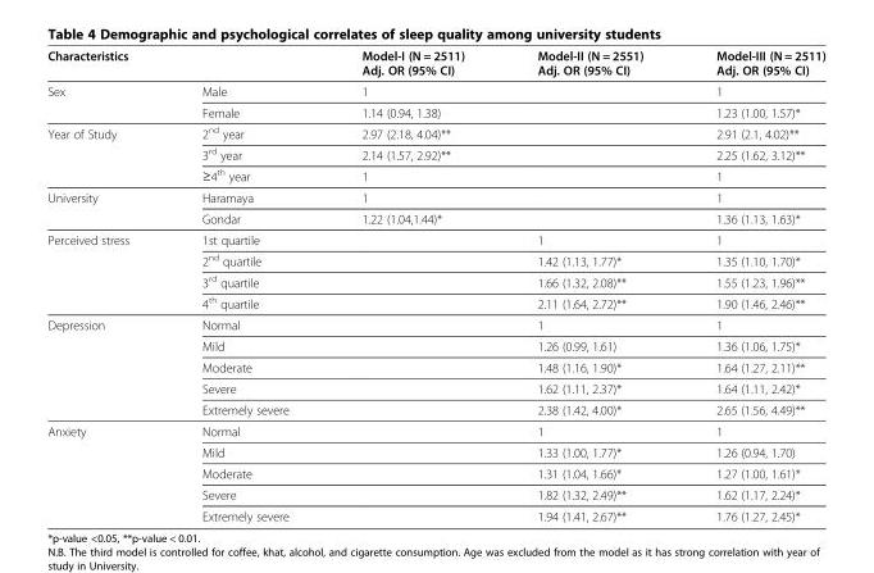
<table><thead><tr><td>Characteristics</td><td></td><td>Model-I (N = 2511) Adj. OR (95% CI)</td><td>Model-II (N = 2551) Adj. OR (95% CI)</td><td>Model-III (N = 2511) Adj. OR (95% CI)</td></tr></thead><tbody><tr><td rowspan="2">Sex</td><td>Male</td><td>1</td><td></td><td>1</td></tr><tr><td>Female</td><td>1.14 (0.94, 1.38)</td><td></td><td>1.23 (1.00, 1.57)*</td></tr><tr><td rowspan="3">Year of Study</td><td>2<sup>nd</sup> year</td><td>2.97 (2.18, 4.04)**</td><td></td><td>2.91 (2.1, 4.02)**</td></tr><tr><td>3<sup>rd</sup> year</td><td>2.14 (1.57, 2.92)**</td><td></td><td>2.25 (1.62, 3.12)**</td></tr><tr><td>≥4<sup>th</sup> year</td><td>1</td><td></td><td>1</td></tr><tr><td rowspan="2">University</td><td>Haramaya</td><td>1</td><td></td><td>1</td></tr><tr><td>Gondar</td><td>1.22 (1.04,1.44)*</td><td></td><td>1.36 (1.13, 1.63)*</td></tr><tr><td rowspan="4">Perceived stress</td><td>1st quartile</td><td></td><td>1</td><td>1</td></tr><tr><td>2<sup>nd</sup> quartile</td><td></td><td>1.42 (1.13, 1.77)*</td><td>1.35 (1.10, 1.70)*</td></tr><tr><td>3<sup>rd</sup> quartile</td><td></td><td>1.66 (1.32, 2.08)**</td><td>1.55 (1.23, 1.96)**</td></tr><tr><td>4<sup>th</sup> quartile</td><td></td><td>2.11 (1.64, 2.72)**</td><td>1.90 (1.46, 2.46)**</td></tr><tr><td rowspan="5">Depression</td><td>Normal</td><td></td><td>1</td><td>1</td></tr><tr><td>Mild</td><td></td><td>1.26 (0.99, 1.61)</td><td>1.36 (1.06, 1.75)*</td></tr><tr><td>Moderate</td><td></td><td>1.48 (1.16, 1.90)*</td><td>1.64 (1.27, 2.11)**</td></tr><tr><td>Severe</td><td></td><td>1.62 (1.11, 2.37)*</td><td>1.64 (1.11, 2.42)*</td></tr><tr><td>Extremely severe</td><td></td><td>2.38 (1.42, 4.00)*</td><td>2.65 (1.56, 4.49)**</td></tr><tr><td rowspan="5">Anxiety</td><td>Normal</td><td></td><td>1</td><td>1</td></tr><tr><td>Mild</td><td></td><td>1.33 (1.00, 1.77)*</td><td>1.26 (0.94, 1.70)</td></tr><tr><td>Moderate</td><td></td><td>1.31 (1.04, 1.66)*</td><td>1.27 (1.00, 1.61)*</td></tr><tr><td>Severe</td><td></td><td>1.82 (1.32, 2.49)**</td><td>1.62 (1.17, 2.24)*</td></tr><tr><td>Extremely severe</td><td></td><td>1.94 (1.41, 2.67)**</td><td>1.76 (1.27, 2.45)*</td></tr></tbody></table>